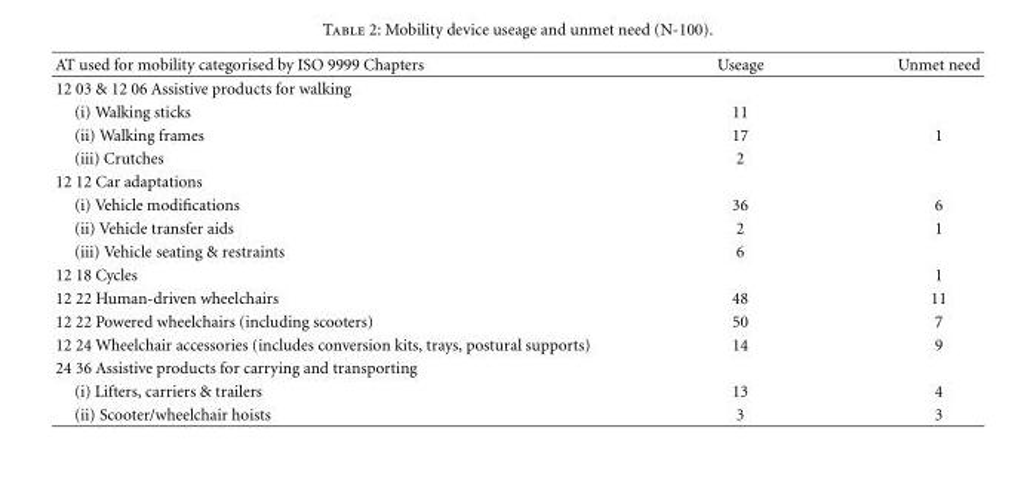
<table><thead><tr><td>AT used for mobility categorised by ISO 9999 Chapters</td><td>Useage</td><td>Unmet need</td></tr></thead><tbody><tr><td colspan="3">12 03 &amp; 12 06 Assistive products for walking</td></tr><tr><td>(i) Walking sticks</td><td>11</td><td></td></tr><tr><td>(ii) Walking frames</td><td>17</td><td>1</td></tr><tr><td>(iii) Crutches</td><td>2</td><td></td></tr><tr><td colspan="3">12 12 Car adaptations</td></tr><tr><td>(i) Vehicle modifications</td><td>36</td><td>6</td></tr><tr><td>(ii) Vehicle transfer aids</td><td>2</td><td>1</td></tr><tr><td>(iii) Vehicle seating &amp; restraints</td><td>6</td><td></td></tr><tr><td>12 18 Cycles</td><td></td><td>1</td></tr><tr><td>12 22 Human-driven wheelchairs</td><td>48</td><td>11</td></tr><tr><td>12 22 Powered wheelchairs (including scooters)</td><td>50</td><td>7</td></tr><tr><td>12 24 Wheelchair accessories (includes conversion kits, trays, postural supports)</td><td>14</td><td>9</td></tr><tr><td colspan="3">24 36 Assistive products for carrying and transporting</td></tr><tr><td>(i) Lifters, carriers &amp; trailers</td><td>13</td><td>4</td></tr><tr><td>(ii) Scooter/wheelchair hoists</td><td>3</td><td>3</td></tr></tbody></table>